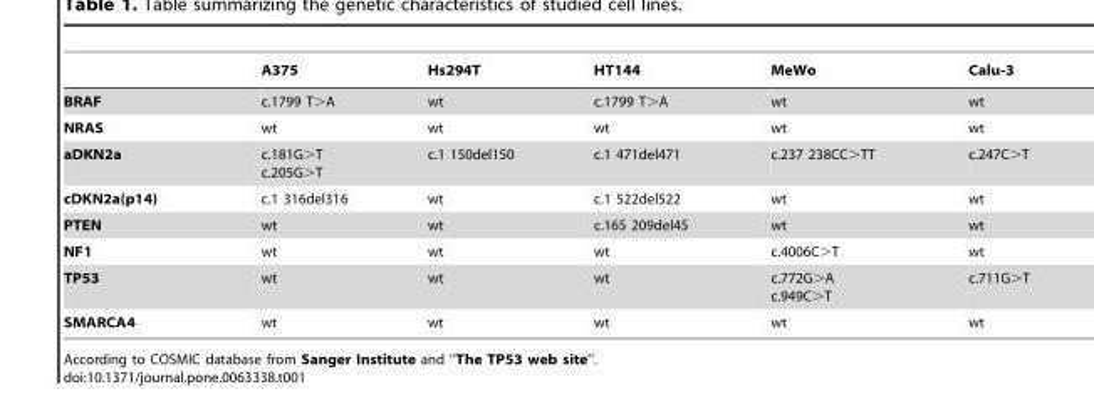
<table><thead><tr><td></td><td>A375</td><td>Hs294T</td><td>HT144</td><td>MeWo</td><td>Calu-3</td></tr></thead><tbody><tr><td>BRAF</td><td>c.1799 T&gt;A</td><td>wt</td><td>c.1799 T&gt;A</td><td>wt</td><td>wt</td></tr><tr><td>NRAS</td><td>wt</td><td>wt</td><td>wt</td><td>wt</td><td>wt</td></tr><tr><td>aDKN2a</td><td>c.181G&gt;T c.205G&gt;T</td><td>c.1 150del150</td><td>c.1 471del471</td><td>c.237 238CC&gt;TT</td><td>c.247C&gt;T</td></tr><tr><td>cDKN2a(p14)</td><td>c.1 316del316</td><td>wt</td><td>c.1 522del522</td><td>wt</td><td>wt</td></tr><tr><td>PTEN</td><td>wt</td><td>wt</td><td>c.165 209del45</td><td>wt</td><td>wt</td></tr><tr><td>NF1</td><td>wt</td><td>wt</td><td>wt</td><td>c.4006C&gt;T</td><td>wt</td></tr><tr><td>TP53</td><td>wt</td><td>wt</td><td>wt</td><td>c.772G&gt;A c.949C&gt;T</td><td>c.711G&gt;T</td></tr><tr><td>SMARCA4</td><td>wt</td><td>wt</td><td>wt</td><td>wt</td><td>wt</td></tr></tbody></table>